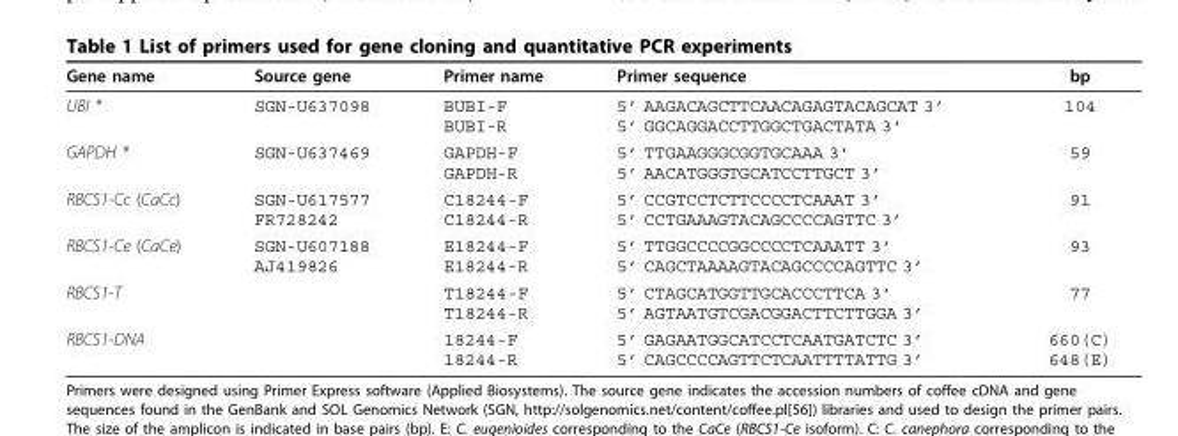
<table><thead><tr><td>Gene name</td><td>Source gene</td><td>Primer name</td><td>Primer sequence</td><td>bp</td></tr></thead><tbody><tr><td>UBI *</td><td>SGN-U637098</td><td>BUBI-F BUBI-R</td><td>5’ AAGACAGCTTCAACAGAGTACAGCAT 3’ 5’ GGCAGGACCTTGGCTGACTATA 3’</td><td>104</td></tr><tr><td>GAPDH *</td><td>SGN-U637469</td><td>GAPDH-F GAPDH-R</td><td>5’ TTGAAGGGCGGTGCAAA 3’ 5’ AACATGGGTGCATCCTTGCT 3’</td><td>59</td></tr><tr><td>RBCS1-Cc (CaCc)</td><td>SGN-U617577 FR728242</td><td>C18244-F C18244-R</td><td>5’ CCGTCCTCTTCCCCTCAAAT 3’ 5’ CCTGAAAGTACAGCCCCAGTTC 3’</td><td>91</td></tr><tr><td>RBCS1-Ce (CaCe)</td><td>SGN-U607188 AJ419826</td><td>E18244-F E18244-R</td><td>5’ TTGGCCCCGGCCCCTCAAATT 3’ 5’ CAGCTAAAAGTACAGCCCCAGTTC 3’</td><td>93</td></tr><tr><td>RBCS1-T</td><td></td><td>T18244-F T18244-R</td><td>5’ CTAGCATGGTTGCACCCTTCA 3’ 5’ AGTAATGTCGACGGACTTCTTGGA 3’</td><td>77</td></tr><tr><td>RBCS1-DNA</td><td></td><td>18244-F 18244-R</td><td>5’ GAGAATGGCATCCTCAATGATCTC 3’ 5’ CAGCCCCAGTTCTCAATTTTATTG 3’</td><td>660(C) 648(E)</td></tr></tbody></table>